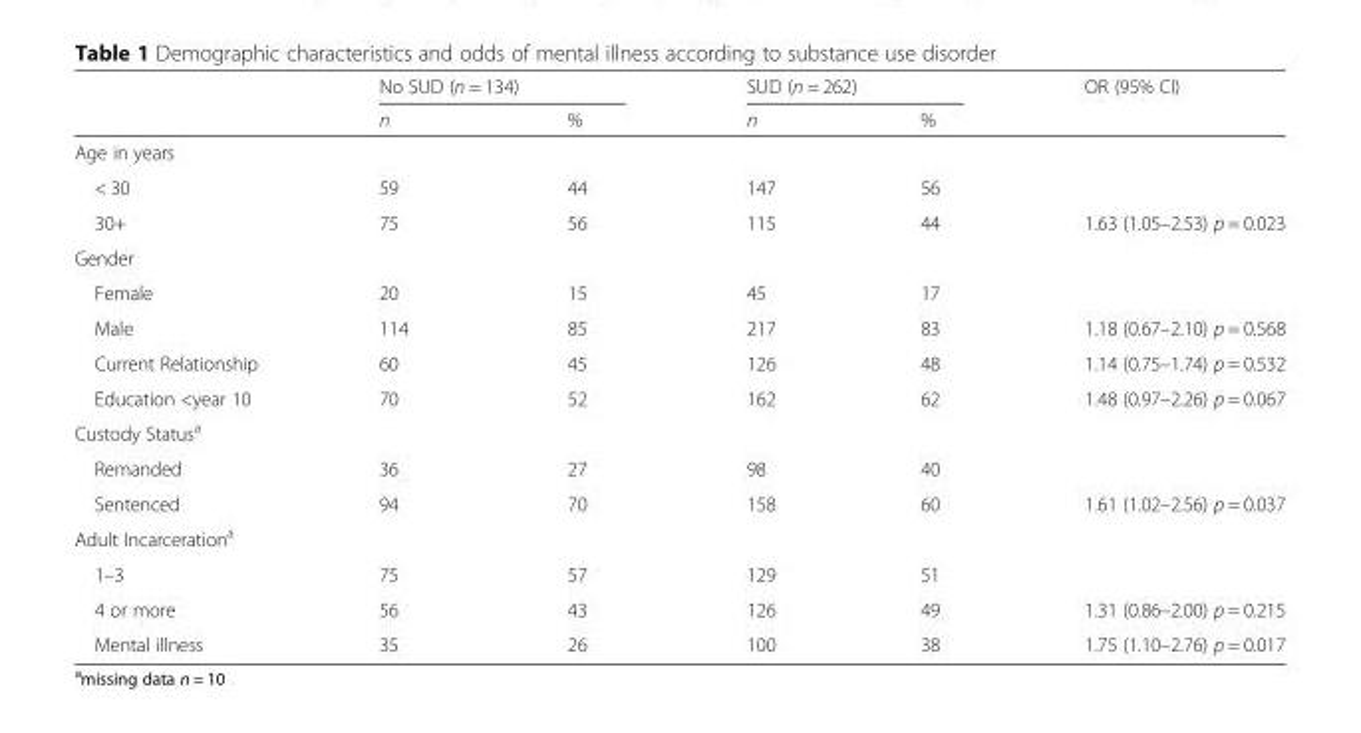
<table><thead><tr><td rowspan="2"></td><td colspan="2">No SUD (n = 134)</td><td colspan="2">SUD (n = 262)</td><td rowspan="2">OR (95% CI)</td></tr><tr><td>n</td><td>%</td><td>n</td><td>%</td></tr></thead><tbody><tr><td colspan="6">Age in years</td></tr><tr><td>&lt; 30</td><td>59</td><td>44</td><td>147</td><td>56</td><td></td></tr><tr><td>30+</td><td>75</td><td>56</td><td>115</td><td>44</td><td>1.63 (1.05–2.53) p = 0.023</td></tr><tr><td colspan="6">Gender</td></tr><tr><td>Female</td><td>20</td><td>15</td><td>45</td><td>17</td><td></td></tr><tr><td>Male</td><td>114</td><td>85</td><td>217</td><td>83</td><td>1.18 (0.67–2.10) p = 0.568</td></tr><tr><td>Current Relationship</td><td>60</td><td>45</td><td>126</td><td>48</td><td>1.14 (0.75–1.74) p = 0.532</td></tr><tr><td>Education &lt;year 10</td><td>70</td><td>52</td><td>162</td><td>62</td><td>1.48 (0.97–2.26) p = 0.067</td></tr><tr><td colspan="6">Custody Status<sup>a</sup></td></tr><tr><td>Remanded</td><td>36</td><td>27</td><td>98</td><td>40</td><td></td></tr><tr><td>Sentenced</td><td>94</td><td>70</td><td>158</td><td>60</td><td>1.61 (1.02–2.56) p = 0.037</td></tr><tr><td colspan="6">Adult Incarceration<sup>a</sup></td></tr><tr><td>1–3</td><td>75</td><td>57</td><td>129</td><td>51</td><td></td></tr><tr><td>4 or more</td><td>56</td><td>43</td><td>126</td><td>49</td><td>1.31 (0.86–2.00) p = 0.215</td></tr><tr><td>Mental illness</td><td>35</td><td>26</td><td>100</td><td>38</td><td>1.75 (1.10–2.76) p = 0.017</td></tr></tbody></table>